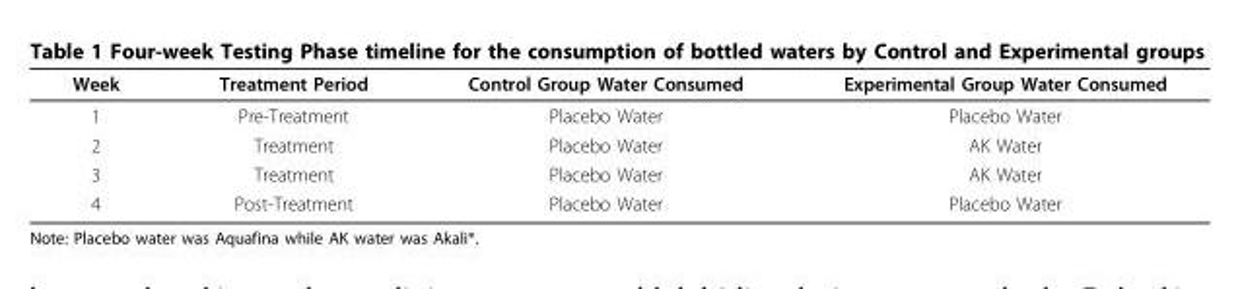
<table><thead><tr><td>Week</td><td>Treatment Period</td><td>Control Group Water Consumed</td><td>Experimental Group Water Consumed</td></tr></thead><tbody><tr><td>1</td><td>Pre-Treatment</td><td>Placebo Water</td><td>Placebo Water</td></tr><tr><td>2</td><td>Treatment</td><td>Placebo Water</td><td>AK Water</td></tr><tr><td>3</td><td>Treatment</td><td>Placebo Water</td><td>AK Water</td></tr><tr><td>4</td><td>Post-Treatment</td><td>Placebo Water</td><td>Placebo Water</td></tr></tbody></table>